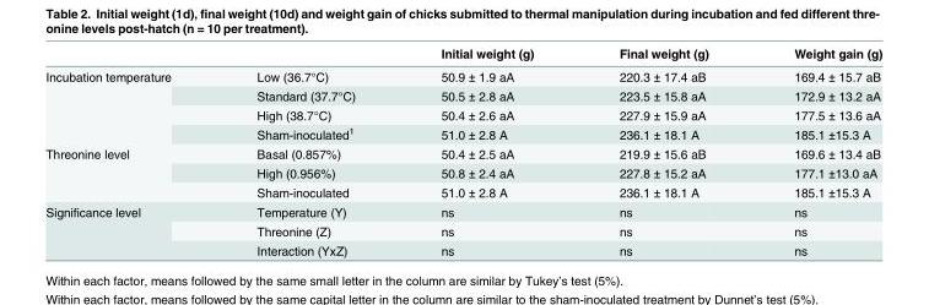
<table><thead><tr><td></td><td></td><td>Initial weight (g)</td><td>Final weight (g)</td><td>Weight gain (g)</td></tr></thead><tbody><tr><td rowspan="4">Incubation temperature</td><td>Low (36.7°C)</td><td>50.9 ± 1.9 aA</td><td>220.3 ± 17.4 aB</td><td>169.4 ± 15.7 aB</td></tr><tr><td>Standard (37.7°C)</td><td>50.5 ± 2.8 aA</td><td>223.5 ± 15.8 aA</td><td>172.9 ± 13.2 aA</td></tr><tr><td>High (38.7°C)</td><td>50.4 ± 2.6 aA</td><td>227.9 ± 15.9 aA</td><td>177.5 ± 13.6 aA</td></tr><tr><td>Sham-inoculated<sup>1</sup></td><td>51.0 ± 2.8 A</td><td>236.1 ± 18.1 A</td><td>185.1 ±15.3 A</td></tr><tr><td rowspan="3">Threonine level</td><td>Basal (0.857%)</td><td>50.4 ± 2.5 aA</td><td>219.9 ± 15.6 aB</td><td>169.6 ± 13.4 aB</td></tr><tr><td>High (0.956%)</td><td>50.8 ± 2.4 aA</td><td>227.8 ± 15.2 aA</td><td>177.1 ±13.0 aA</td></tr><tr><td>Sham-inoculated</td><td>51.0 ± 2.8 A</td><td>236.1 ± 18.1 A</td><td>185.1 ±15.3 A</td></tr><tr><td rowspan="3">Significance level</td><td>Temperature (Y)</td><td>ns</td><td>ns</td><td>ns</td></tr><tr><td>Threonine (Z)</td><td>ns</td><td>ns</td><td>ns</td></tr><tr><td>Interaction (YxZ)</td><td>ns</td><td>ns</td><td>ns</td></tr></tbody></table>